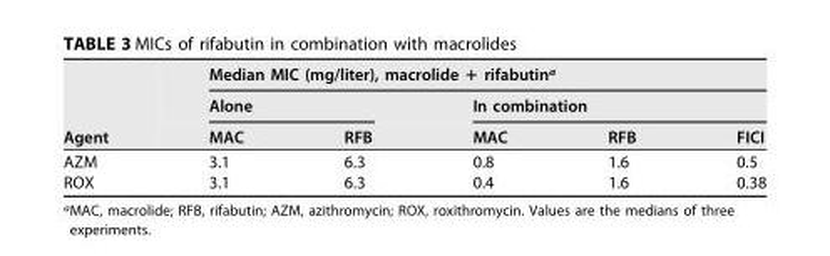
<table><thead><tr><td rowspan="3">Agent</td><td colspan="5">Median MIC (mg/liter), macrolide + rifabutin<sup>a</sup></td></tr><tr><td colspan="2">Alone</td><td colspan="3">In combination</td></tr><tr><td>MAC</td><td>RFB</td><td>MAC</td><td>RFB</td><td>FICI</td></tr></thead><tbody><tr><td>AZM</td><td>3.1</td><td>6.3</td><td>0.8</td><td>1.6</td><td>0.5</td></tr><tr><td>ROX</td><td>3.1</td><td>6.3</td><td>0.4</td><td>1.6</td><td>0.38</td></tr></tbody></table>